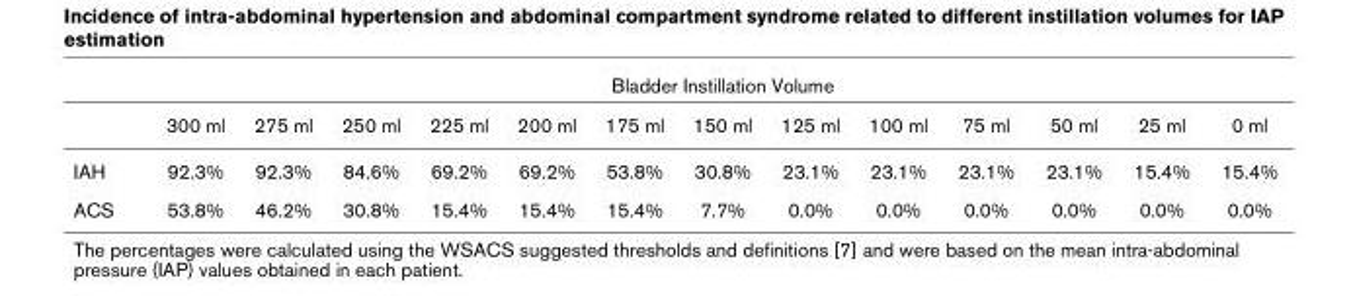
<table><thead><tr><td rowspan="2"></td><td colspan="13">Bladder Instillation Volume</td></tr><tr><td>300 ml</td><td>275 ml</td><td>250 ml</td><td>225 ml</td><td>200 ml</td><td>175 ml</td><td>150 ml</td><td>125 ml</td><td>100 ml</td><td>75 ml</td><td>50 ml</td><td>25 ml</td><td>0 ml</td></tr></thead><tbody><tr><td>IAH</td><td>92.3%</td><td>92.3%</td><td>84.6%</td><td>69.2%</td><td>69.2%</td><td>53.8%</td><td>30.8%</td><td>23.1%</td><td>23.1%</td><td>23.1%</td><td>23.1%</td><td>15.4%</td><td>15.4%</td></tr><tr><td>ACS</td><td>53.8%</td><td>46.2%</td><td>30.8%</td><td>15.4%</td><td>15.4%</td><td>15.4%</td><td>7.7%</td><td>0.0%</td><td>0.0%</td><td>0.0%</td><td>0.0%</td><td>0.0%</td><td>0.0%</td></tr></tbody></table>